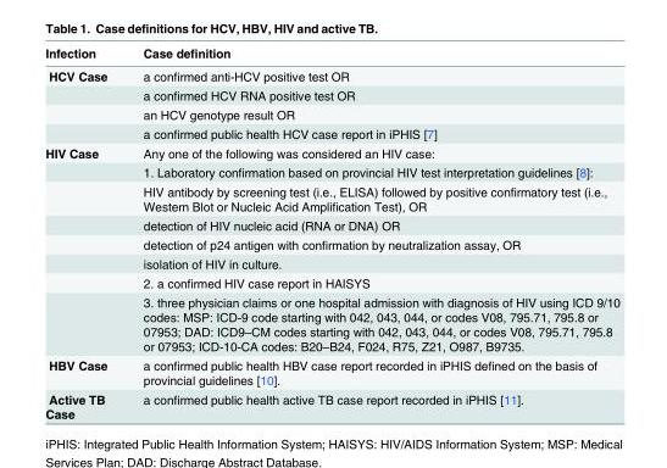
<table><thead><tr><td>Infection</td><td>Case definition</td></tr></thead><tbody><tr><td rowspan="4">HCV Case</td><td>a confirmed anti-HCV positive test OR</td></tr><tr><td>a confirmed HCV RNA positive test OR</td></tr><tr><td>an HCV genotype result OR</td></tr><tr><td>a confirmed public health HCV case report in iPHIS [7]</td></tr><tr><td rowspan="8">HIV Case</td><td>Any one of the following was considered an HIV case:</td></tr><tr><td>1. Laboratory confirmation based on provincial HIV test interpretation guidelines [8]:</td></tr><tr><td>HIV antibody by screening test (i.e., ELISA) followed by positive confirmatory test (i.e., Western Blot or Nucleic Acid Amplification Test), OR</td></tr><tr><td>detection of HIV nucleic acid (RNA or DNA) OR</td></tr><tr><td>detection of p24 antigen with confirmation by neutralization assay, OR</td></tr><tr><td>isolation of HIV in culture.</td></tr><tr><td>2. a confirmed HIV case report in HAISYS</td></tr><tr><td>3. three physician claims or one hospital admission with diagnosis of HIV using ICD 9/10 codes: MSP: ICD-9 code starting with 042, 043, 044, or codes V08, 795.71, 795.8 or 07953; DAD: ICD9–CM codes starting with 042, 043, 044, or codes V08, 795.71, 795.8 or 07953; ICD-10-CA codes: B20–B24, F024, R75, Z21, O987, B9735.</td></tr><tr><td>HBV Case</td><td>a confirmed public health HBV case report recorded in iPHIS defined on the basis of provincial guidelines [10].</td></tr><tr><td>Active TB Case</td><td>a confirmed public health active TB case report recorded in iPHIS [11].</td></tr></tbody></table>